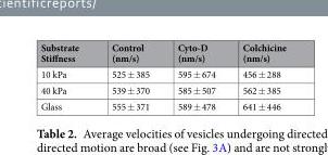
<table><thead><tr><td>Substrate Stiffness</td><td>Control (nm/s)</td><td>Cyto-D (nm/s)</td><td>Colchicine (nm/s)</td></tr></thead><tbody><tr><td>10 kPa</td><td>525 ± 385</td><td>595 ± 674</td><td>456 ± 288</td></tr><tr><td>40 kPa</td><td>539 ± 370</td><td>585 ± 507</td><td>562 ± 385</td></tr><tr><td>Glass</td><td>555 ± 371</td><td>589 ± 478</td><td>641 ± 446</td></tr></tbody></table>